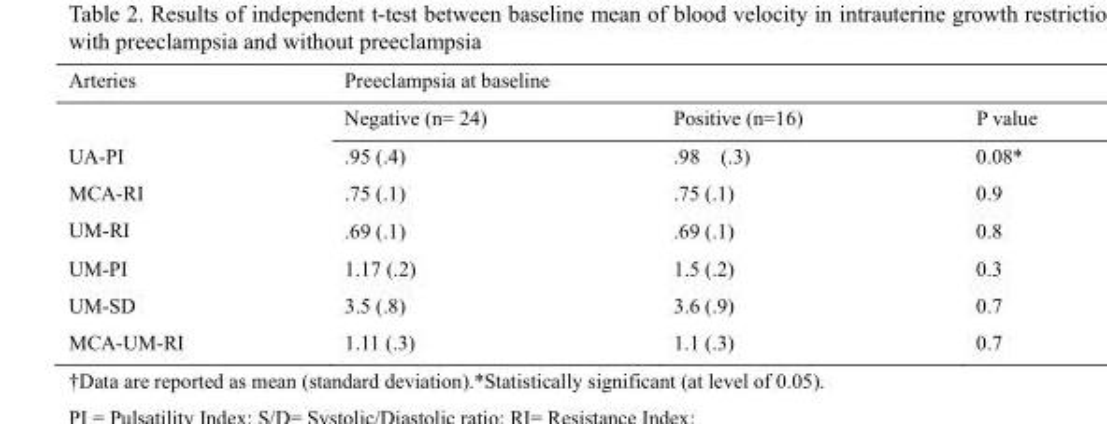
<table><thead><tr><td rowspan="2">Arteries</td><td colspan="3">Preeclampsia at baseline</td></tr><tr><td>Negative (n= 24)</td><td>Positive (n=16)</td><td>P value</td></tr></thead><tbody><tr><td>UA-PI</td><td>.95 (.4)</td><td>.98 (.3)</td><td>0.08*</td></tr><tr><td>MCA-RI</td><td>.75 (.1)</td><td>.75 (.1)</td><td>0.9</td></tr><tr><td>UM-RI</td><td>.69 (.1)</td><td>.69 (.1)</td><td>0.8</td></tr><tr><td>UM-PI</td><td>1.17 (.2)</td><td>1.5 (.2)</td><td>0.3</td></tr><tr><td>UM-SD</td><td>3.5 (.8)</td><td>3.6 (.9)</td><td>0.7</td></tr><tr><td>MCA-UM-RI</td><td>1.11 (.3)</td><td>1.1 (.3)</td><td>0.7</td></tr></tbody></table>